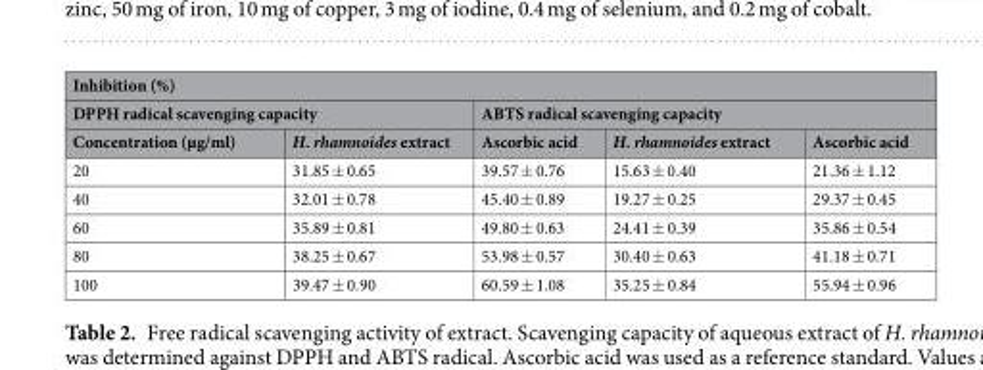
<table><thead><tr><td colspan="5">Inhibition (%)</td></tr><tr><td colspan="2">DPPH radical scavenging capacity</td><td colspan="3">ABTS radical scavenging capacity</td></tr><tr><td>Concentration (µg/ml)</td><td>H. rhamnoides extract</td><td>Ascorbic acid</td><td>H. rhamnoides extract</td><td>Ascorbic acid</td></tr></thead><tbody><tr><td>20</td><td>31.85 ± 0.65</td><td>39.57 ± 0.76</td><td>15.63 ± 0.40</td><td>21.36 ± 1.12</td></tr><tr><td>40</td><td>32.01 ± 0.78</td><td>45.40 ± 0.89</td><td>19.27 ± 0.25</td><td>29.37 ± 0.45</td></tr><tr><td>60</td><td>35.89 ± 0.81</td><td>49.80 ± 0.63</td><td>24.41 ± 0.39</td><td>35.86 ± 0.54</td></tr><tr><td>80</td><td>38.25 ± 0.67</td><td>53.98 ± 0.57</td><td>30.40 ± 0.63</td><td>41.18 ± 0.71</td></tr><tr><td>100</td><td>39.47 ± 0.90</td><td>60.59 ± 1.08</td><td>35.25 ± 0.84</td><td>55.94 ± 0.96</td></tr></tbody></table>